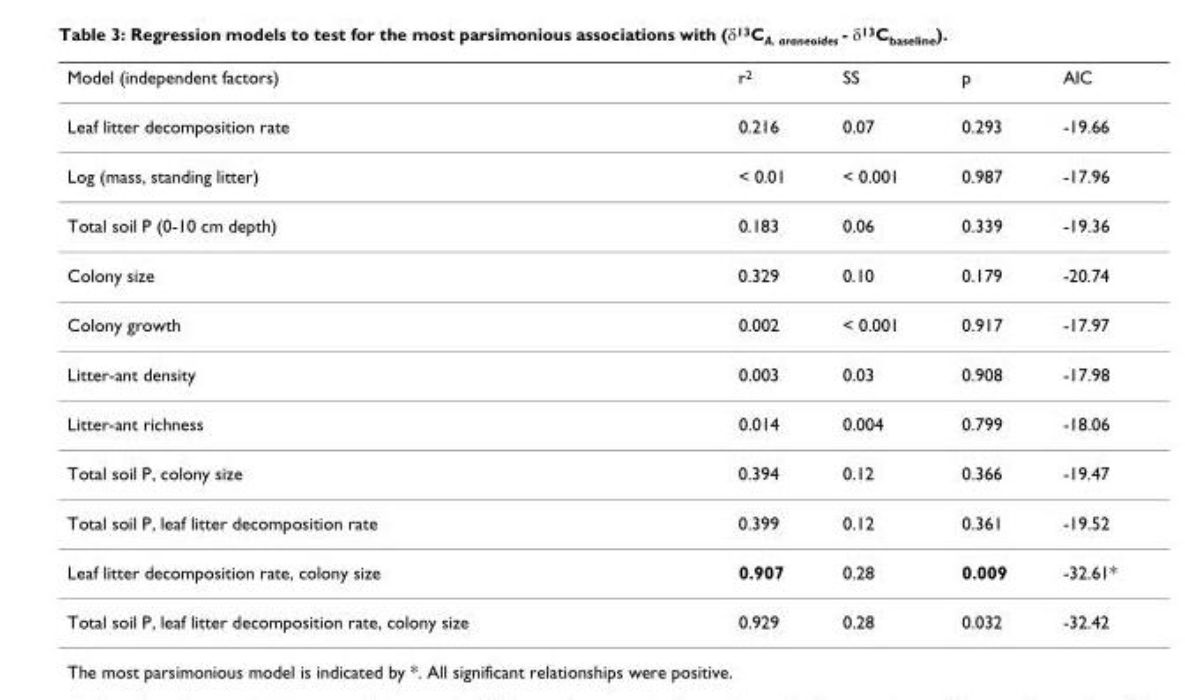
<table><thead><tr><td>Model (independent factors)</td><td>r<sup>2</sup></td><td>SS</td><td>p</td><td>AIC</td></tr></thead><tbody><tr><td>Leaf litter decomposition rate</td><td>0.216</td><td>0.07</td><td>0.293</td><td>-19.66</td></tr><tr><td>Log (mass, standing litter)</td><td>&lt; 0.01</td><td>&lt; 0.001</td><td>0.987</td><td>-17.96</td></tr><tr><td>Total soil P (0-10 cm depth)</td><td>0.183</td><td>0.06</td><td>0.339</td><td>-19.36</td></tr><tr><td>Colony size</td><td>0.329</td><td>0.10</td><td>0.179</td><td>-20.74</td></tr><tr><td>Colony growth</td><td>0.002</td><td>&lt; 0.001</td><td>0.917</td><td>-17.97</td></tr><tr><td>Litter-ant density</td><td>0.003</td><td>0.03</td><td>0.908</td><td>-17.98</td></tr><tr><td>Litter-ant richness</td><td>0.014</td><td>0.004</td><td>0.799</td><td>-18.06</td></tr><tr><td>Total soil P, colony size</td><td>0.394</td><td>0.12</td><td>0.366</td><td>-19.47</td></tr><tr><td>Total soil P, leaf litter decomposition rate</td><td>0.399</td><td>0.12</td><td>0.361</td><td>-19.52</td></tr><tr><td>Leaf litter decomposition rate, colony size</td><td>0.907</td><td>0.28</td><td>0.009</td><td>-32.61*</td></tr><tr><td>Total soil P, leaf litter decomposition rate, colony size</td><td>0.929</td><td>0.28</td><td>0.032</td><td>-32.42</td></tr></tbody></table>